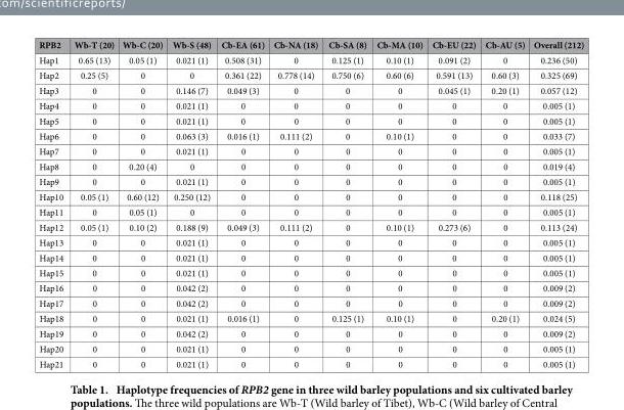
<table><thead><tr><td>RPB2</td><td>Wb-T (20)</td><td>Wb-C (20)</td><td>Wb-S (48)</td><td>Cb-EA (61)</td><td>Cb-NA (18)</td><td>Cb-SA (8)</td><td>Cb-MA (10)</td><td>Cb-EU (22)</td><td>Cb-AU (5)</td><td>Overall (212)</td></tr></thead><tbody><tr><td>Hap1</td><td>0.65 (13)</td><td>0.05 (1)</td><td>0.021 (1)</td><td>0.508 (31)</td><td>0</td><td>0.125 (1)</td><td>0.10 (1)</td><td>0.091 (2)</td><td>0</td><td>0.236 (50)</td></tr><tr><td>Hap2</td><td>0.25 (5)</td><td>0</td><td>0</td><td>0.361 (22)</td><td>0.778 (14)</td><td>0.750 (6)</td><td>0.60 (6)</td><td>0.591 (13)</td><td>0.60 (3)</td><td>0.325 (69)</td></tr><tr><td>Hap3</td><td>0</td><td>0</td><td>0.146 (7)</td><td>0.049 (3)</td><td>0</td><td>0</td><td>0</td><td>0.045 (1)</td><td>0.20 (1)</td><td>0.057 (12)</td></tr><tr><td>Hap4</td><td>0</td><td>0</td><td>0.021 (1)</td><td>0</td><td>0</td><td>0</td><td>0</td><td>0</td><td>0</td><td>0.005 (1)</td></tr><tr><td>Hap5</td><td>0</td><td>0</td><td>0.021 (1)</td><td>0</td><td>0</td><td>0</td><td>0</td><td>0</td><td>0</td><td>0.005 (1)</td></tr><tr><td>Hap6</td><td>0</td><td>0</td><td>0.063 (3)</td><td>0.016 (1)</td><td>0.111 (2)</td><td>0</td><td>0.10 (1)</td><td>0</td><td>0</td><td>0.033 (7)</td></tr><tr><td>Hap7</td><td>0</td><td>0</td><td>0.021 (1)</td><td>0</td><td>0</td><td>0</td><td>0</td><td>0</td><td>0</td><td>0.005 (1)</td></tr><tr><td>Hap8</td><td>0</td><td>0.20 (4)</td><td>0</td><td>0</td><td>0</td><td>0</td><td>0</td><td>0</td><td>0</td><td>0.019 (4)</td></tr><tr><td>Hap9</td><td>0</td><td>0</td><td>0.021 (1)</td><td>0</td><td>0</td><td>0</td><td>0</td><td>0</td><td>0</td><td>0.005 (1)</td></tr><tr><td>Hap10</td><td>0.05 (1)</td><td>0.60 (12)</td><td>0.250 (12)</td><td>0</td><td>0</td><td>0</td><td>0</td><td>0</td><td>0</td><td>0.118 (25)</td></tr><tr><td>Hap11</td><td>0</td><td>0.05 (1)</td><td>0</td><td>0</td><td>0</td><td>0</td><td>0</td><td>0</td><td>0</td><td>0.005 (1)</td></tr><tr><td>Hap12</td><td>0.05 (1)</td><td>0.10 (2)</td><td>0.188 (9)</td><td>0.049 (3)</td><td>0.111 (2)</td><td>0</td><td>0.10 (1)</td><td>0.273 (6)</td><td>0</td><td>0.113 (24)</td></tr><tr><td>Hap13</td><td>0</td><td>0</td><td>0.021 (1)</td><td>0</td><td>0</td><td>0</td><td>0</td><td>0</td><td>0</td><td>0.005 (1)</td></tr><tr><td>Hap14</td><td>0</td><td>0</td><td>0.021 (1)</td><td>0</td><td>0</td><td>0</td><td>0</td><td>0</td><td>0</td><td>0.005 (1)</td></tr><tr><td>Hap15</td><td>0</td><td>0</td><td>0.021 (1)</td><td>0</td><td>0</td><td>0</td><td>0</td><td>0</td><td>0</td><td>0.005 (1)</td></tr><tr><td>Hap16</td><td>0</td><td>0</td><td>0.042 (2)</td><td>0</td><td>0</td><td>0</td><td>0</td><td>0</td><td>0</td><td>0.009 (2)</td></tr><tr><td>Hap17</td><td>0</td><td>0</td><td>0.042 (2)</td><td>0</td><td>0</td><td>0</td><td>0</td><td>0</td><td>0</td><td>0.009 (2)</td></tr><tr><td>Hap18</td><td>0</td><td>0</td><td>0.021 (1)</td><td>0.016 (1)</td><td>0</td><td>0.125 (1)</td><td>0.10 (1)</td><td>0</td><td>0.20 (1)</td><td>0.024 (5)</td></tr><tr><td>Hap19</td><td>0</td><td>0</td><td>0.042 (2)</td><td>0</td><td>0</td><td>0</td><td>0</td><td>0</td><td>0</td><td>0.009 (2)</td></tr><tr><td>Hap20</td><td>0</td><td>0</td><td>0.021 (1)</td><td>0</td><td>0</td><td>0</td><td>0</td><td>0</td><td>0</td><td>0.005 (1)</td></tr><tr><td>Hap21</td><td>0</td><td>0</td><td>0.021 (1)</td><td>0</td><td>0</td><td>0</td><td>0</td><td>0</td><td>0</td><td>0.005 (1)</td></tr></tbody></table>